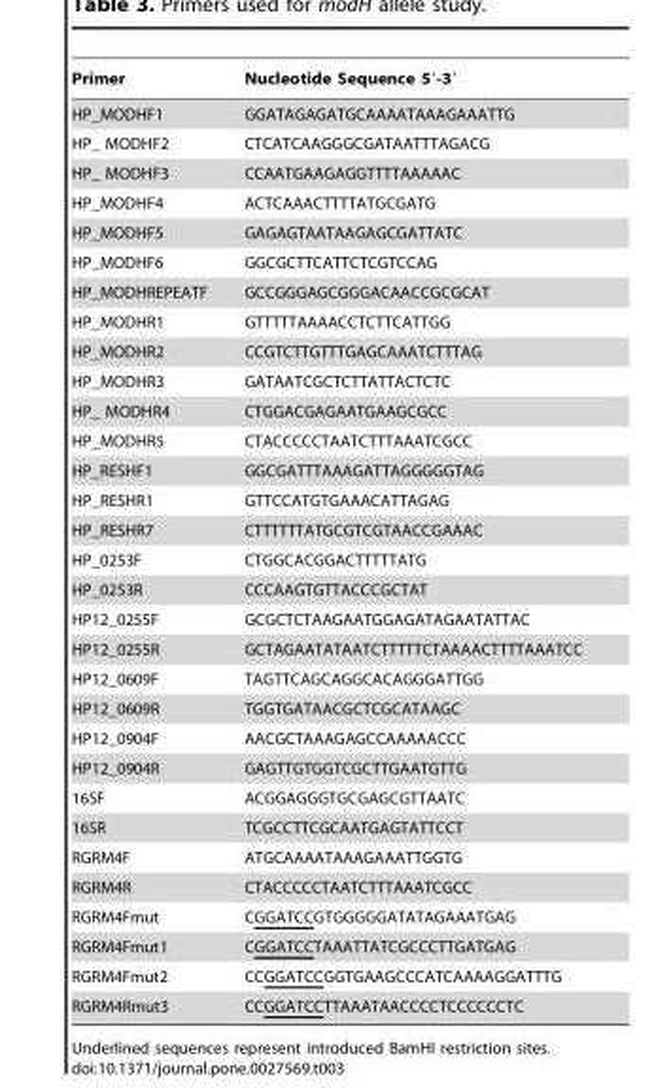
<table><thead><tr><td>Primer</td><td>Nucleotide Sequence 5′-3′</td></tr></thead><tbody><tr><td>HP_MODHF1</td><td>GGATAGAGATGCAAAATAAAGAAATTG</td></tr><tr><td>HP_ MODHF2</td><td>CTCATCAAGGGCGATAATTTAGACG</td></tr><tr><td>HP_ MODHF3</td><td>CCAATGAAGAGGTTTTAAAAAC</td></tr><tr><td>HP_MODHF4</td><td>ACTCAAACTTTTATGCGATG</td></tr><tr><td>HP_MODHF5</td><td>GAGAGTAATAAGAGCGATTATC</td></tr><tr><td>HP_MODHF6</td><td>GGCGCTTCATTCTCGTCCAG</td></tr><tr><td>HP_MODHREPEATF</td><td>GCCGGGAGCGGGACAACCGCGCAT</td></tr><tr><td>HP_MODHR1</td><td>GTTTTTAAAACCTCTTCATTGG</td></tr><tr><td>HP_MODHR2</td><td>CCGTCTTGTTTGAGCAAATCTTTAG</td></tr><tr><td>HP_MODHR3</td><td>GATAATCGCTCTTATTACTCTC</td></tr><tr><td>HP_ MODHR4</td><td>CTGGACGAGAATGAAGCGCC</td></tr><tr><td>HP_MODHR5</td><td>CTACCCCCTAATCTTTAAATCGCC</td></tr><tr><td>HP_RESHF1</td><td>GGCGATTTAAAGATTAGGGGGTAG</td></tr><tr><td>HP_RESHR1</td><td>GTTCCATGTGAAACATTAGAG</td></tr><tr><td>HP_RESHR7</td><td>CTTTTTTATGCGTCGTAACCGAAAC</td></tr><tr><td>HP_0253F</td><td>CTGGCACGGACTTTTTATG</td></tr><tr><td>HP_0253R</td><td>CCCAAGTGTTACCCGCTAT</td></tr><tr><td>HP12_0255F</td><td>GCGCTCTAAGAATGGAGATAGAATATTAC</td></tr><tr><td>HP12_0255R</td><td>GCTAGAATATAATCTTTTTCTAAAACTTTTAAATCC</td></tr><tr><td>HP12_0609F</td><td>TAGTTCAGCAGGCACAGGGATTGG</td></tr><tr><td>HP12_0609R</td><td>TGGTGATAACGCTCGCATAAGC</td></tr><tr><td>HP12_0904F</td><td>AACGCTAAAGAGCCAAAAACCC</td></tr><tr><td>HP12_0904R</td><td>GAGTTGTGGTCGCTTGAATGTTG</td></tr><tr><td>16SF</td><td>ACGGAGGGTGCGAGCGTTAATC</td></tr><tr><td>16SR</td><td>TCGCCTTCGCAATGAGTATTCCT</td></tr><tr><td>RGRM4F</td><td>ATGCAAAATAAAGAAATTGGTG</td></tr><tr><td>RGRM4R</td><td>CTACCCCCTAATCTTTAAATCGCC</td></tr><tr><td>RGRM4Fmut</td><td>CGGATCCGTGGGGGATATAGAAATGAG</td></tr><tr><td>RGRM4Fmut1</td><td>CGGATCCTAAATTATCGCCCTTGATGAG</td></tr><tr><td>RGRM4Fmut2</td><td>CCGGATCCGGTGAAGCCCATCAAAAGGATTTG</td></tr><tr><td>RGRM4Rmut3</td><td>CCGGATCCTTAAATAACCCCTCCCCCCTC</td></tr></tbody></table>